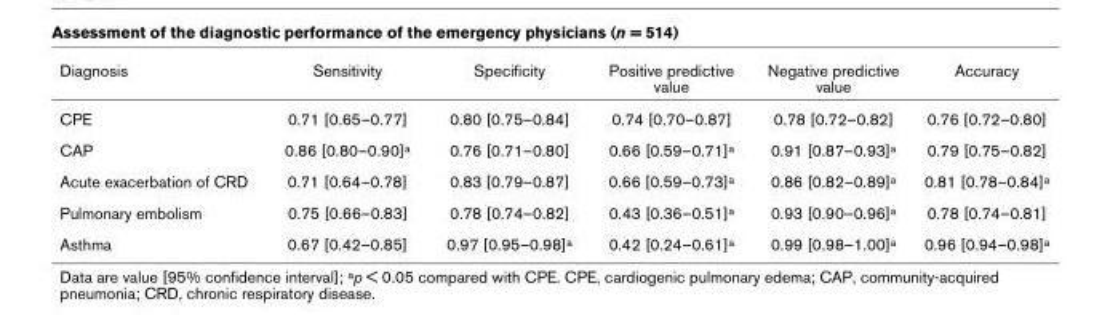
<table><thead><tr><td>Diagnosis</td><td>Sensitivity</td><td>Specificity</td><td>Positive predictive value</td><td>Negative predictive value</td><td>Accuracy</td></tr></thead><tbody><tr><td>CPE</td><td>0.71 [0.65–0.77]</td><td>0.80 [0.75–0.84]</td><td>0.74 [0.70–0.87]</td><td>0.78 [0.72–0.82]</td><td>0.76 [0.72–0.80]</td></tr><tr><td>CAP</td><td>0.86 [0.80–0.90]a</td><td>0.76 [0.71–0.80]</td><td>0.66 [0.59–0.71]a</td><td>0.91 [0.87–0.93]a</td><td>0.79 [0.75–0.82]</td></tr><tr><td>Acute exacerbation of CRD</td><td>0.71 [0.64–0.78]</td><td>0.83 [0.79–0.87]</td><td>0.66 [0.59–0.73]a</td><td>0.86 [0.82–0.89]a</td><td>0.81 [0.78–0.84]a</td></tr><tr><td>Pulmonary embolism</td><td>0.75 [0.66–0.83]</td><td>0.78 [0.74–0.82]</td><td>0.43 [0.36–0.51]a</td><td>0.93 [0.90–0.96]a</td><td>0.78 [0.74–0.81]</td></tr><tr><td>Asthma</td><td>0.67 [0.42–0.85]</td><td>0.97 [0.95–0.98]a</td><td>0.42 [0.24–0.61]a</td><td>0.99 [0.98–1.00]a</td><td>0.96 [0.94–0.98]a</td></tr></tbody></table>